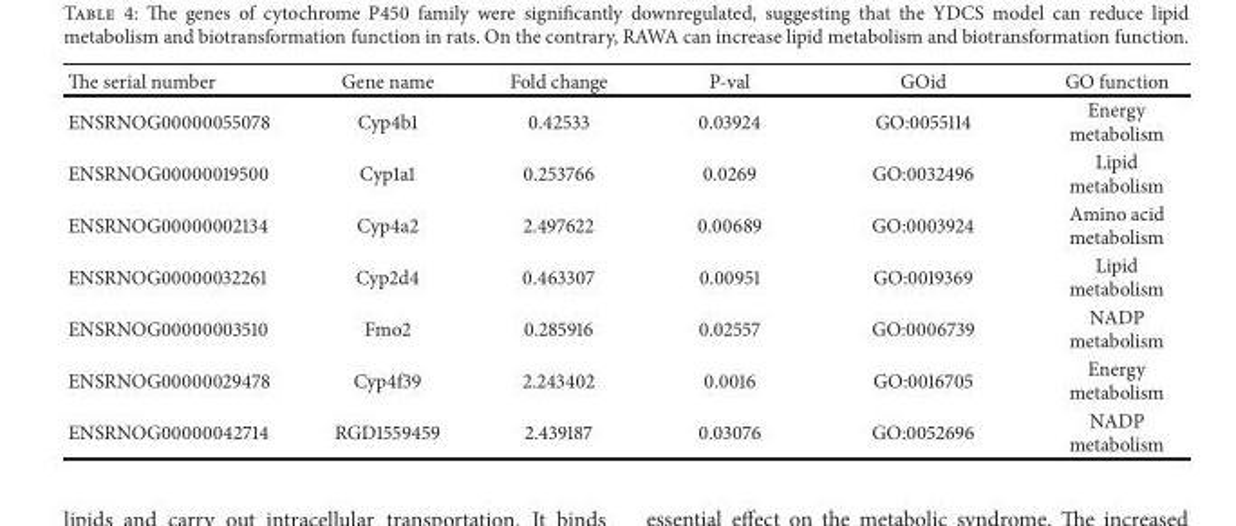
<table><thead><tr><td>The serial number</td><td>Gene name</td><td>Fold change</td><td>P-val</td><td>GOid</td><td>GO function</td></tr></thead><tbody><tr><td>ENSRNOG00000055078</td><td>Cyp4b1</td><td>0.42533</td><td>0.03924</td><td>GO:0055114</td><td>Energy metabolism</td></tr><tr><td>ENSRNOG00000019500</td><td>Cyp1a1</td><td>0.253766</td><td>0.0269</td><td>GO:0032496</td><td>Lipid metabolism</td></tr><tr><td>ENSRNOG00000002134</td><td>Cyp4a2</td><td>2.497622</td><td>0.00689</td><td>GO:0003924</td><td>Amino acid metabolism</td></tr><tr><td>ENSRNOG00000032261</td><td>Cyp2d4</td><td>0.463307</td><td>0.00951</td><td>GO:0019369</td><td>Lipid metabolism</td></tr><tr><td>ENSRNOG00000003510</td><td>Fmo2</td><td>0.285916</td><td>0.02557</td><td>GO:0006739</td><td>NADP metabolism</td></tr><tr><td>ENSRNOG00000029478</td><td>Cyp4f39</td><td>2.243402</td><td>0.0016</td><td>GO:0016705</td><td>Energy metabolism</td></tr><tr><td>ENSRNOG00000042714</td><td>RGD1559459</td><td>2.439187</td><td>0.03076</td><td>GO:0052696</td><td>NADP metabolism</td></tr></tbody></table>